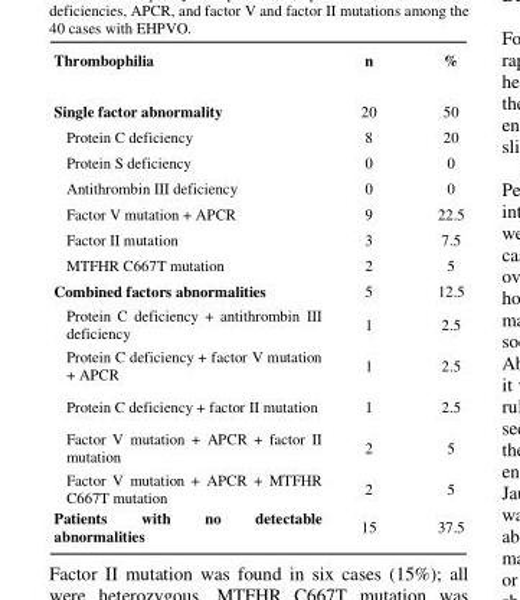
<table><thead><tr><td>Thrombophilia</td><td>n</td><td>%</td></tr></thead><tbody><tr><td>Single factor abnormality</td><td>20</td><td>50</td></tr><tr><td>Protein C deficiency</td><td>8</td><td>20</td></tr><tr><td>Protein S deficiency</td><td>0</td><td>0</td></tr><tr><td>Antithrombin III deficiency</td><td>0</td><td>0</td></tr><tr><td>Factor V mutation + APCR</td><td>9</td><td>22.5</td></tr><tr><td>Factor II mutation</td><td>3</td><td>7.5</td></tr><tr><td>MTFHR C667T mutation</td><td>2</td><td>5</td></tr><tr><td>Combined factors abnormalities</td><td>5</td><td>12.5</td></tr><tr><td>Protein C deficiency + antithrombin III deficiency</td><td>1</td><td>2.5</td></tr><tr><td>Protein C deficiency + factor V mutation + APCR</td><td>1</td><td>2.5</td></tr><tr><td>Protein C deficiency + factor II mutation</td><td>1</td><td>2.5</td></tr><tr><td>Factor V mutation + APCR + factor II mutation</td><td>2</td><td>5</td></tr><tr><td>Factor V mutation + APCR + MTFHR C667T mutation</td><td>2</td><td>5</td></tr><tr><td>Patients with no detectable abnormalities</td><td>15</td><td>37.5</td></tr></tbody></table>